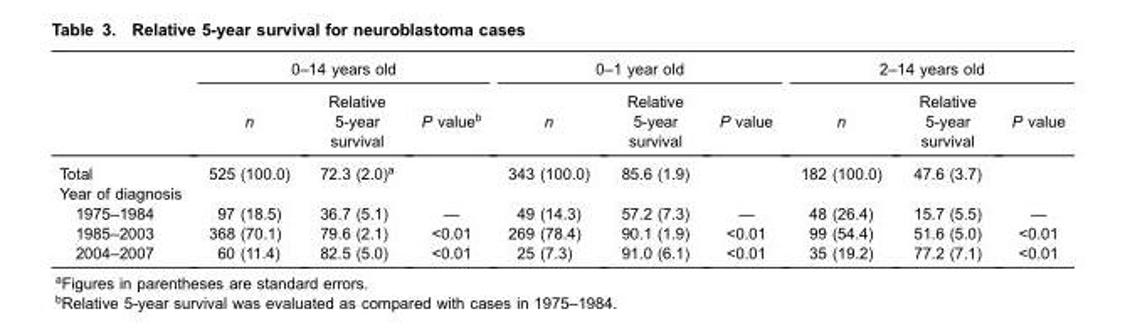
<table><thead><tr><td rowspan="2"></td><td colspan="3">0–14 years old</td><td colspan="3">0–1 year old</td><td colspan="3">2–14 years old</td></tr><tr><td>n</td><td>Relative 5-year survival</td><td>P value<sup>b</sup></td><td>n</td><td>Relative 5-year survival</td><td>P value</td><td>n</td><td>Relative 5-year survival</td><td>P value</td></tr></thead><tbody><tr><td>Total</td><td>525 (100.0)</td><td>72.3 (2.0)<sup>a</sup></td><td></td><td>343 (100.0)</td><td>85.6 (1.9)</td><td></td><td>182 (100.0)</td><td>47.6 (3.7)</td><td></td></tr><tr><td colspan="10">Year of diagnosis</td></tr><tr><td>1975–1984</td><td>97 (18.5)</td><td>36.7 (5.1)</td><td>—</td><td>49 (14.3)</td><td>57.2 (7.3)</td><td>—</td><td>48 (26.4)</td><td>15.7 (5.5)</td><td>—</td></tr><tr><td>1985–2003</td><td>368 (70.1)</td><td>79.6 (2.1)</td><td>&lt;0.01</td><td>269 (78.4)</td><td>90.1 (1.9)</td><td>&lt;0.01</td><td>99 (54.4)</td><td>51.6 (5.0)</td><td>&lt;0.01</td></tr><tr><td>2004–2007</td><td>60 (11.4)</td><td>82.5 (5.0)</td><td>&lt;0.01</td><td>25 (7.3)</td><td>91.0 (6.1)</td><td>&lt;0.01</td><td>35 (19.2)</td><td>77.2 (7.1)</td><td>&lt;0.01</td></tr></tbody></table>